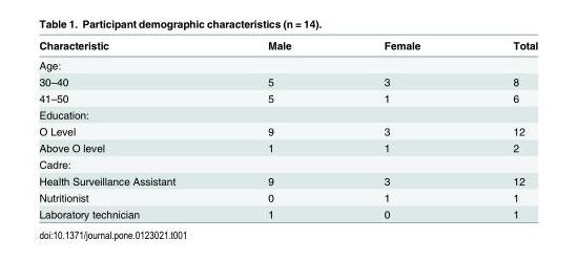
<table><thead><tr><td>Characteristic</td><td>Male</td><td>Female</td><td>Total</td></tr></thead><tbody><tr><td colspan="4">Age:</td></tr><tr><td>30–40</td><td>5</td><td>3</td><td>8</td></tr><tr><td>41–50</td><td>5</td><td>1</td><td>6</td></tr><tr><td colspan="4">Education:</td></tr><tr><td>O Level</td><td>9</td><td>3</td><td>12</td></tr><tr><td>Above O level</td><td>1</td><td>1</td><td>2</td></tr><tr><td colspan="4">Cadre:</td></tr><tr><td>Health Surveillance Assistant</td><td>9</td><td>3</td><td>12</td></tr><tr><td>Nutritionist</td><td>0</td><td>1</td><td>1</td></tr><tr><td>Laboratory technician</td><td>1</td><td>0</td><td>1</td></tr></tbody></table>